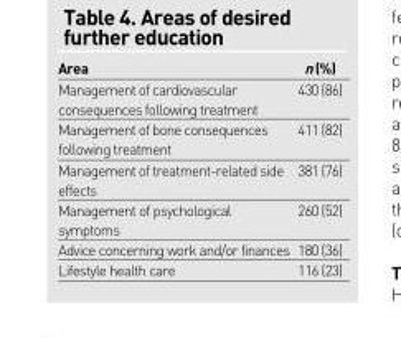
<table><thead><tr><td>Area</td><td>n (%)</td></tr></thead><tbody><tr><td>Management of cardiovascular consequences following treatment</td><td>430 (86)</td></tr><tr><td>Management of bone consequences following treatment</td><td>411 (82)</td></tr><tr><td>Management of treatment-related side effects</td><td>381 (76)</td></tr><tr><td>Management of psychological symptoms</td><td>260 (52)</td></tr><tr><td>Advice concerning work and/or finances</td><td>180 (36)</td></tr><tr><td>Lifestyle health care</td><td>116 (23)</td></tr></tbody></table>